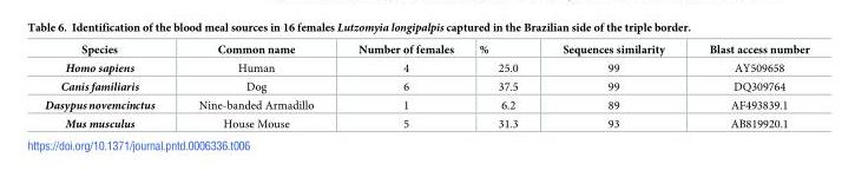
<table><thead><tr><td>Species</td><td>Common name</td><td>Number of females</td><td>%</td><td>Sequences similarity</td><td>Blast access number</td></tr></thead><tbody><tr><td>Homo sapiens</td><td>Human</td><td>4</td><td>25.0</td><td>99</td><td>AY509658</td></tr><tr><td>Canis familiaris</td><td>Dog</td><td>6</td><td>37.5</td><td>99</td><td>DQ309764</td></tr><tr><td>Dasypusnovemcinctus</td><td>Nine-banded Armadillo</td><td>1</td><td>6.2</td><td>89</td><td>AF493839.1</td></tr><tr><td>Mus musculus</td><td>House Mouse</td><td>5</td><td>31.3</td><td>93</td><td>AB819920.1</td></tr></tbody></table>